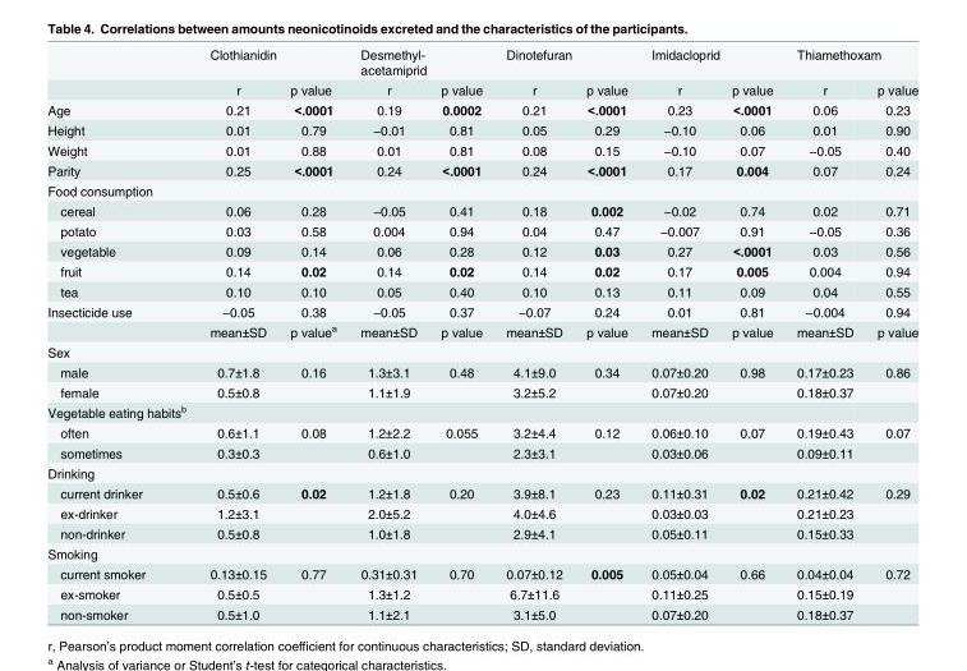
<table><thead><tr><td rowspan="2"></td><td colspan="2">Clothianidin</td><td colspan="2">Desmethyl- acetamiprid</td><td colspan="2">Dinotefuran</td><td colspan="2">Imidacloprid</td><td colspan="2">Thiamethoxam</td></tr><tr><td>r</td><td>p value</td><td>r</td><td>p value</td><td>r</td><td>p value</td><td>r</td><td>p value</td><td>r</td><td>p value</td></tr></thead><tbody><tr><td>Age</td><td>0.21</td><td>&lt;.0001</td><td>0.19</td><td>0.0002</td><td>0.21</td><td>&lt;.0001</td><td>0.23</td><td>&lt;.0001</td><td>0.06</td><td>0.23</td></tr><tr><td>Height</td><td>0.01</td><td>0.79</td><td>−0.01</td><td>0.81</td><td>0.05</td><td>0.29</td><td>−0.10</td><td>0.06</td><td>0.01</td><td>0.90</td></tr><tr><td>Weight</td><td>0.01</td><td>0.88</td><td>0.01</td><td>0.81</td><td>0.08</td><td>0.15</td><td>−0.10</td><td>0.07</td><td>−0.05</td><td>0.40</td></tr><tr><td>Parity</td><td>0.25</td><td>&lt;.0001</td><td>0.24</td><td>&lt;.0001</td><td>0.24</td><td>&lt;.0001</td><td>0.17</td><td>0.004</td><td>0.07</td><td>0.24</td></tr><tr><td colspan="11">Food consumption</td></tr><tr><td>cereal</td><td>0.06</td><td>0.28</td><td>−0.05</td><td>0.41</td><td>0.18</td><td>0.002</td><td>−0.02</td><td>0.74</td><td>0.02</td><td>0.71</td></tr><tr><td>potato</td><td>0.03</td><td>0.58</td><td>0.004</td><td>0.94</td><td>0.04</td><td>0.47</td><td>−0.007</td><td>0.91</td><td>−0.05</td><td>0.36</td></tr><tr><td>vegetable</td><td>0.09</td><td>0.14</td><td>0.06</td><td>0.28</td><td>0.12</td><td>0.03</td><td>0.27</td><td>&lt;.0001</td><td>0.03</td><td>0.56</td></tr><tr><td>fruit</td><td>0.14</td><td>0.02</td><td>0.14</td><td>0.02</td><td>0.14</td><td>0.02</td><td>0.17</td><td>0.005</td><td>0.004</td><td>0.94</td></tr><tr><td>tea</td><td>0.10</td><td>0.10</td><td>0.05</td><td>0.40</td><td>0.10</td><td>0.13</td><td>0.11</td><td>0.09</td><td>0.04</td><td>0.55</td></tr><tr><td rowspan="2">Insecticide use</td><td>−0.05</td><td>0.38</td><td>−0.05</td><td>0.37</td><td>−0.07</td><td>0.24</td><td>0.01</td><td>0.81</td><td>−0.004</td><td>0.94</td></tr><tr><td>mean±SD</td><td>p value<sup>a</sup></td><td>mean±SD</td><td>p value</td><td>mean±SD</td><td>p value</td><td>mean±SD</td><td>p value</td><td>mean±SD</td><td>p value</td></tr><tr><td colspan="11">Sex</td></tr><tr><td>male</td><td>0.7±1.8</td><td>0.16</td><td>1.3±3.1</td><td>0.48</td><td>4.1±9.0</td><td>0.34</td><td>0.07±0.20</td><td>0.98</td><td>0.17±0.23</td><td>0.86</td></tr><tr><td>female</td><td>0.5±0.8</td><td></td><td>1.1±1.9</td><td></td><td>3.2±5.2</td><td></td><td>0.07±0.20</td><td></td><td>0.18±0.37</td><td></td></tr><tr><td colspan="11">Vegetable eating habits<sup>b</sup></td></tr><tr><td>often</td><td>0.6±1.1</td><td>0.08</td><td>1.2±2.2</td><td>0.055</td><td>3.2±4.4</td><td>0.12</td><td>0.06±0.10</td><td>0.07</td><td>0.19±0.43</td><td>0.07</td></tr><tr><td>sometimes</td><td>0.3±0.3</td><td></td><td>0.6±1.0</td><td></td><td>2.3±3.1</td><td></td><td>0.03±0.06</td><td></td><td>0.09±0.11</td><td></td></tr><tr><td colspan="11">Drinking</td></tr><tr><td>current drinker</td><td>0.5±0.6</td><td>0.02</td><td>1.2±1.8</td><td>0.20</td><td>3.9±8.1</td><td>0.23</td><td>0.11±0.31</td><td>0.02</td><td>0.21±0.42</td><td>0.29</td></tr><tr><td>ex-drinker</td><td>1.2±3.1</td><td></td><td>2.0±5.2</td><td></td><td>4.0±4.6</td><td></td><td>0.03±0.03</td><td></td><td>0.21±0.23</td><td></td></tr><tr><td>non-drinker</td><td>0.5±0.8</td><td></td><td>1.0±1.8</td><td></td><td>2.9±4.1</td><td></td><td>0.05±0.11</td><td></td><td>0.15±0.33</td><td></td></tr><tr><td colspan="11">Smoking</td></tr><tr><td>current smoker</td><td>0.13±0.15</td><td>0.77</td><td>0.31±0.31</td><td>0.70</td><td>0.07±0.12</td><td>0.005</td><td>0.05±0.04</td><td>0.66</td><td>0.04±0.04</td><td>0.72</td></tr><tr><td>ex-smoker</td><td>0.5±0.5</td><td></td><td>1.3±1.2</td><td></td><td>6.7±11.6</td><td></td><td>0.11±0.25</td><td></td><td>0.15±0.19</td><td></td></tr><tr><td>non-smoker</td><td>0.5±1.0</td><td></td><td>1.1±2.1</td><td></td><td>3.1±5.0</td><td></td><td>0.07±0.20</td><td></td><td>0.18±0.37</td><td></td></tr></tbody></table>